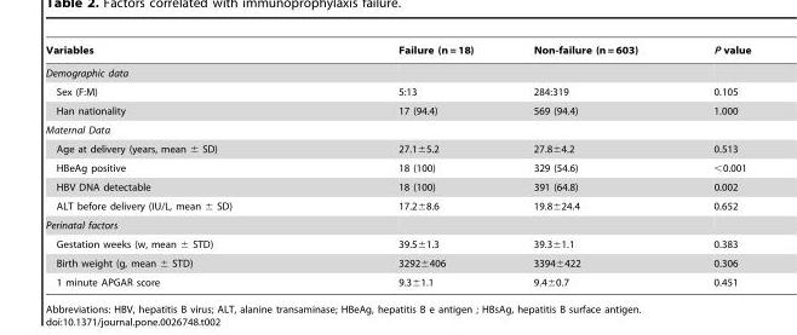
<table><thead><tr><td>Variables</td><td>Failure (n = 18)</td><td>Non-failure (n = 603)</td><td>P value</td></tr></thead><tbody><tr><td colspan="4">Demographic data</td></tr><tr><td>Sex (F:M)</td><td>5:13</td><td>284:319</td><td>0.105</td></tr><tr><td>Han nationality</td><td>17 (94.4)</td><td>569 (94.4)</td><td>1.000</td></tr><tr><td colspan="4">Maternal Data</td></tr><tr><td>Age at delivery (years, mean ± SD)</td><td>27.1±5.2</td><td>27.8±4.2</td><td>0.513</td></tr><tr><td>HBeAg positive</td><td>18 (100)</td><td>329 (54.6)</td><td>&lt;0.001</td></tr><tr><td>HBV DNA detectable</td><td>18 (100)</td><td>391 (64.8)</td><td>0.002</td></tr><tr><td>ALT before delivery (IU/L, mean ± SD)</td><td>17.2±8.6</td><td>19.8±24.4</td><td>0.652</td></tr><tr><td colspan="4">Perinatal factors</td></tr><tr><td>Gestation weeks (w, mean ± STD)</td><td>39.5±1.3</td><td>39.3±1.1</td><td>0.383</td></tr><tr><td>Birth weight (g, mean ± STD)</td><td>3292±406</td><td>3394±422</td><td>0.306</td></tr><tr><td>1 minute APGAR score</td><td>9.3±1.1</td><td>9.4±0.7</td><td>0.451</td></tr></tbody></table>